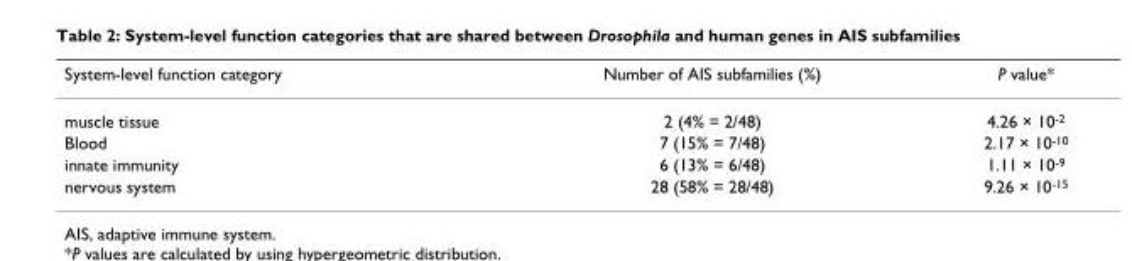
<table><thead><tr><td>System-level function category</td><td>Number of AIS subfamilies (%)</td><td>P value*</td></tr></thead><tbody><tr><td>muscle tissue</td><td>2 (4% = 2/48)</td><td>4.26 × 10<sup>-2</sup></td></tr><tr><td>Blood</td><td>7 (15% = 7/48)</td><td>2.17 × 10<sup>-10</sup></td></tr><tr><td>innate immunity</td><td>6 (13% = 6/48)</td><td>1.11 × 10<sup>-9</sup></td></tr><tr><td>nervous system</td><td>28 (58% = 28/48)</td><td>9.26 × 10<sup>-15</sup></td></tr></tbody></table>